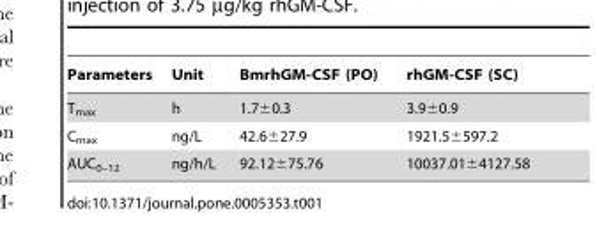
<table><thead><tr><td>Parameters</td><td>Unit</td><td>BmrhGM-CSF (PO)</td><td>rhGM-CSF (SC)</td></tr></thead><tbody><tr><td>T<sub>max</sub></td><td>h</td><td>1.7±0.3</td><td>3.9±0.9</td></tr><tr><td>C<sub>max</sub></td><td>ng/L</td><td>42.6±27.9</td><td>1921.5±597.2</td></tr><tr><td>AUC<sub>0–12</sub></td><td>ng/h/L</td><td>92.12±75.76</td><td>10037.01±4127.58</td></tr></tbody></table>